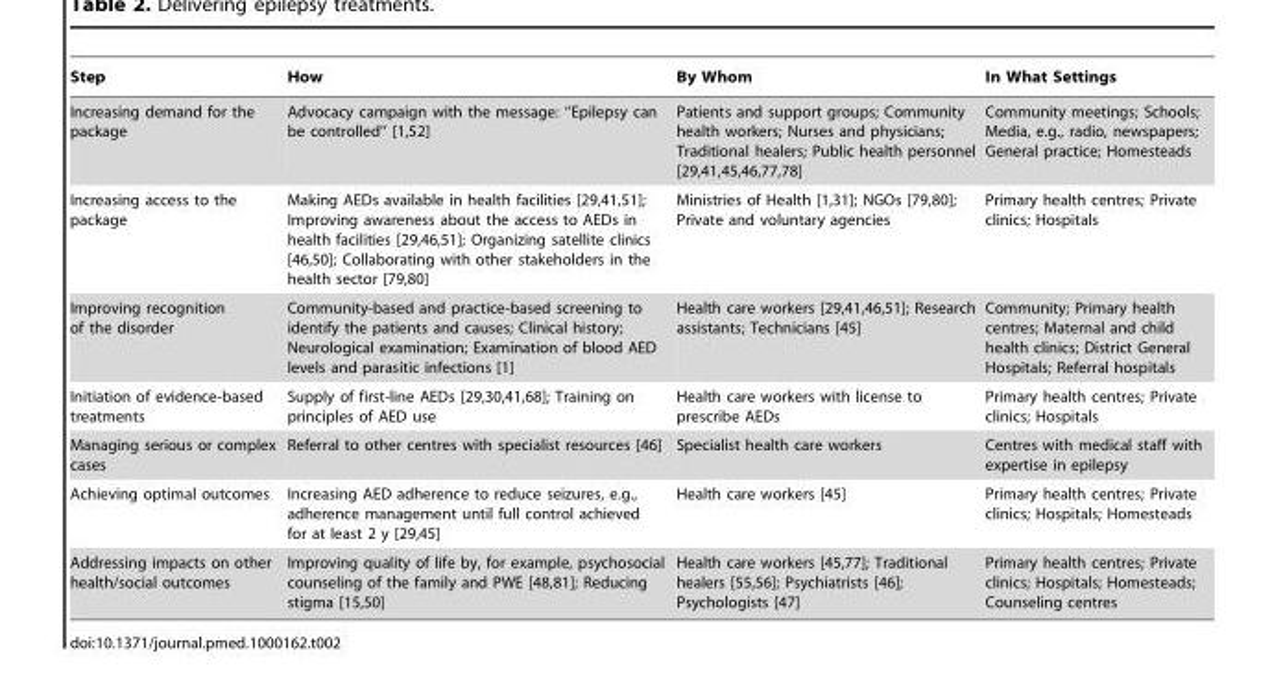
<table><thead><tr><td>Step</td><td>How</td><td>By Whom</td><td>In What Settings</td></tr></thead><tbody><tr><td>Increasing demand for the package</td><td>Advocacy campaign with the message: ‘‘Epilepsy can be controlled’’ [1,52]</td><td>Patients and support groups; Community health workers; Nurses and physicians; Traditional healers; Public health personnel [29,41,45,46,77,78]</td><td>Community meetings; Schools; Media, e.g., radio, newspapers; General practice; Homesteads</td></tr><tr><td>Increasing access to the package</td><td>Making AEDs available in health facilities [29,41,51]; Improving awareness about the access to AEDs in health facilities [29,46,51]; Organizing satellite clinics [46,50]; Collaborating with other stakeholders in the health sector [79,80]</td><td>Ministries of Health [1,31]; NGOs [79,80]; Private and voluntary agencies</td><td>Primary health centres; Private clinics; Hospitals</td></tr><tr><td>Improving recognition of the disorder</td><td>Community-based and practice-based screening to identify the patients and causes; Clinical history; Neurological examination; Examination of blood AED levels and parasitic infections [1]</td><td>Health care workers [29,41,46,51]; Research assistants; Technicians [45]</td><td>Community; Primary health centres; Maternal and child health clinics; District General Hospitals; Referral hospitals</td></tr><tr><td>Initiation of evidence-based treatments</td><td>Supply of first-line AEDs [29,30,41,68]; Training on principles of AED use</td><td>Health care workers with license to prescribe AEDs</td><td>Primary health centres; Private clinics; Hospitals</td></tr><tr><td>Managing serious or complex cases</td><td>Referral to other centres with specialist resources [46]</td><td>Specialist health care workers</td><td>Centres with medical staff with expertise in epilepsy</td></tr><tr><td>Achieving optimal outcomes</td><td>Increasing AED adherence to reduce seizures, e.g., adherence management until full control achieved for at least 2 y [29,45]</td><td>Health care workers [45]</td><td>Primary health centres; Private clinics; Hospitals; Homesteads</td></tr><tr><td>Addressing impacts on other health/social outcomes</td><td>Improving quality of life by, for example, psychosocial counseling of the family and PWE [48,81]; Reducing stigma [15,50]</td><td>Health care workers [45,77]; Traditional healers [55,56]; Psychiatrists [46]; Psychologists [47]</td><td>Primary health centres; Private clinics; Hospitals; Homesteads; Counseling centres</td></tr></tbody></table>